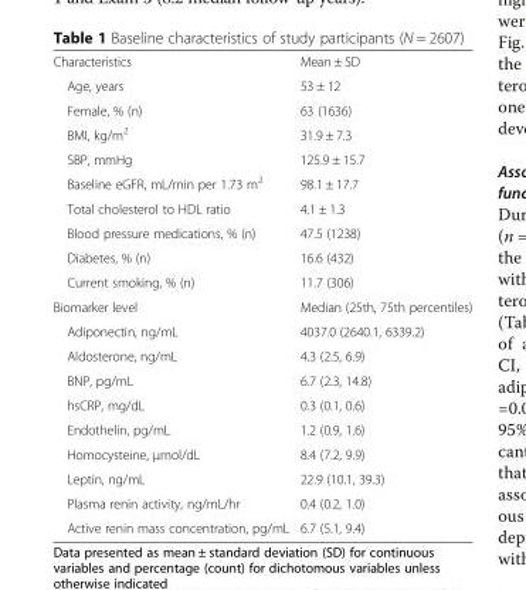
<table><tbody><tr><td>Characteristics</td><td>Mean ± SD</td></tr><tr><td>Age, years</td><td>53 ± 12</td></tr><tr><td>Female, % (n)</td><td>63 (1636)</td></tr><tr><td>BMI, kg/m<sup>2</sup></td><td>31.9 ± 7.3</td></tr><tr><td>SBP, mmHg</td><td>125.9 ± 15.7</td></tr><tr><td>Baseline eGFR, mL/min per 1.73 m<sup>2</sup></td><td>98.1 ± 17.7</td></tr><tr><td>Total cholesterol to HDL ratio</td><td>4.1 ± 1.3</td></tr><tr><td>Blood pressure medications, % (n)</td><td>47.5 (1238)</td></tr><tr><td>Diabetes, % (n)</td><td>16.6 (432)</td></tr><tr><td>Current smoking, % (n)</td><td>11.7 (306)</td></tr><tr><td>Biomarker level</td><td>Median (25th, 75th percentiles)</td></tr><tr><td>Adiponectin, ng/mL</td><td>4037.0 (2640.1, 6339.2)</td></tr><tr><td>Aldosterone, ng/mL</td><td>4.3 (2.5, 6.9)</td></tr><tr><td>BNP, pg/mL</td><td>6.7 (2.3, 14.8)</td></tr><tr><td>hsCRP, mg/dL</td><td>0.3 (0.1, 0.6)</td></tr><tr><td>Endothelin, pg/mL</td><td>1.2 (0.9, 1.6)</td></tr><tr><td>Homocysteine, μmol/dL</td><td>8.4 (7.2, 9.9)</td></tr><tr><td>Leptin, ng/mL</td><td>22.9 (10.1, 39.3)</td></tr><tr><td>Plasma renin activity, ng/mL/hr</td><td>0.4 (0.2, 1.0)</td></tr><tr><td>Active renin mass concentration, pg/mL</td><td>6.7 (5.1, 9.4)</td></tr></tbody></table>